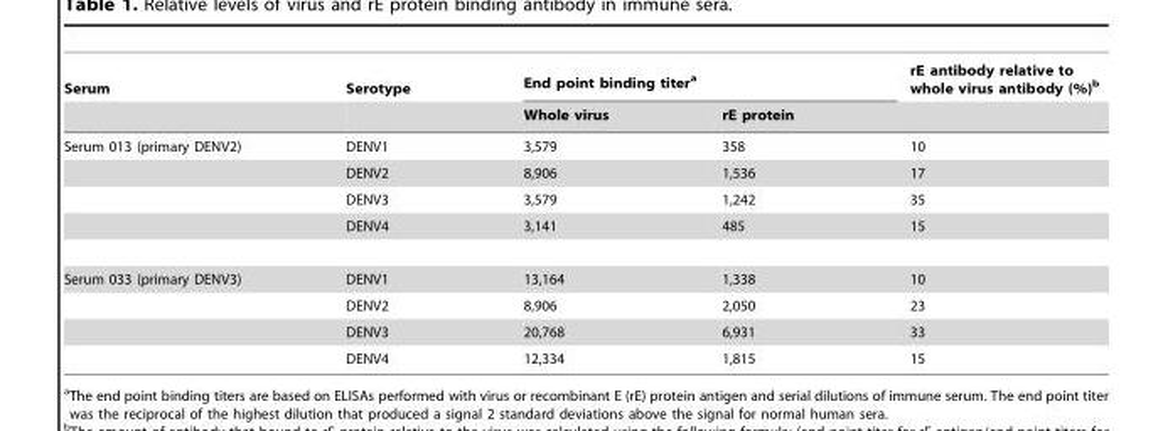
<table><thead><tr><td rowspan="2">Serum</td><td rowspan="2">Serotype</td><td colspan="2">End point binding titer<sup>a</sup></td><td rowspan="2">rE antibody relative to whole virus antibody (%)<sup>b</sup></td></tr><tr><td>Whole virus</td><td>rE protein</td></tr></thead><tbody><tr><td rowspan="4">Serum 013 (primary DENV2)</td><td>DENV1</td><td>3,579</td><td>358</td><td>10</td></tr><tr><td>DENV2</td><td>8,906</td><td>1,536</td><td>17</td></tr><tr><td>DENV3</td><td>3,579</td><td>1,242</td><td>35</td></tr><tr><td>DENV4</td><td>3,141</td><td>485</td><td>15</td></tr><tr><td rowspan="4">Serum 033 (primary DENV3)</td><td>DENV1</td><td>13,164</td><td>1,338</td><td>10</td></tr><tr><td>DENV2</td><td>8,906</td><td>2,050</td><td>23</td></tr><tr><td>DENV3</td><td>20,768</td><td>6,931</td><td>33</td></tr><tr><td>DENV4</td><td>12,334</td><td>1,815</td><td>15</td></tr></tbody></table>